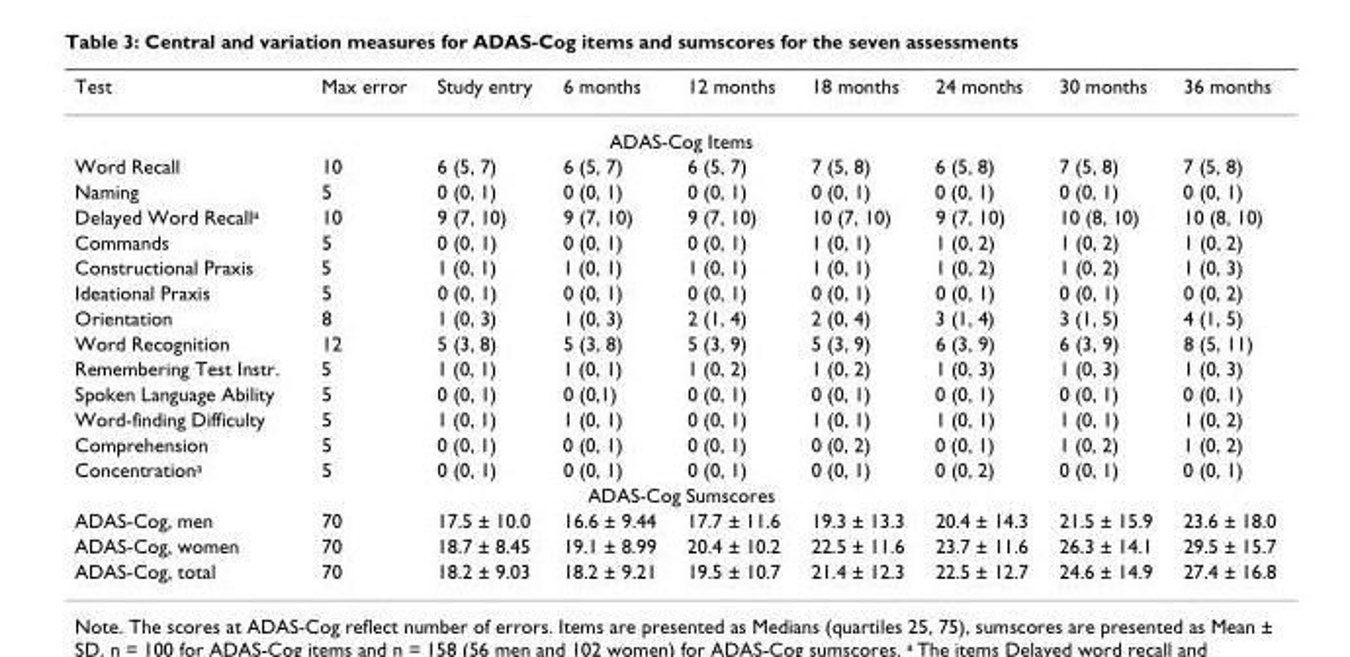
<table><thead><tr><td>Test</td><td>Max error</td><td>Study entry</td><td>6 months</td><td>12 months</td><td>18 months</td><td>24 months</td><td>30 months</td><td>36 months</td></tr></thead><tbody><tr><td colspan="9">ADAS-Cog Items</td></tr><tr><td>Word Recall</td><td>10</td><td>6 (5, 7)</td><td>6 (5, 7)</td><td>6 (5, 7)</td><td>7 (5, 8)</td><td>6 (5, 8)</td><td>7 (5, 8)</td><td>7 (5, 8)</td></tr><tr><td>Naming</td><td>5</td><td>0 (0, 1)</td><td>0 (0, 1)</td><td>0 (0, 1)</td><td>0 (0, 1)</td><td>0 (0, 1)</td><td>0 (0, 1)</td><td>0 (0, 1)</td></tr><tr><td>Delayed Word Recall<sup>a</sup></td><td>10</td><td>9 (7, 10)</td><td>9 (7, 10)</td><td>9 (7, 10)</td><td>10 (7, 10)</td><td>9 (7, 10)</td><td>10 (8, 10)</td><td>10 (8, 10)</td></tr><tr><td>Commands</td><td>5</td><td>0 (0, 1)</td><td>0 (0, 1)</td><td>0 (0, 1)</td><td>1 (0, 1)</td><td>1 (0, 2)</td><td>1 (0, 2)</td><td>1 (0, 2)</td></tr><tr><td>Constructional Praxis</td><td>5</td><td>1 (0, 1)</td><td>1 (0, 1)</td><td>1 (0, 1)</td><td>1 (0, 1)</td><td>1 (0, 2)</td><td>1 (0, 2)</td><td>1 (0, 3)</td></tr><tr><td>Ideational Praxis</td><td>5</td><td>0 (0, 1)</td><td>0 (0, 1)</td><td>0 (0, 1)</td><td>0 (0, 1)</td><td>0 (0, 1)</td><td>0 (0, 1)</td><td>0 (0, 2)</td></tr><tr><td>Orientation</td><td>8</td><td>1 (0, 3)</td><td>1 (0, 3)</td><td>2 (1, 4)</td><td>2 (0, 4)</td><td>3 (1, 4)</td><td>3 (1, 5)</td><td>4 (1, 5)</td></tr><tr><td>Word Recognition</td><td>12</td><td>5 (3, 8)</td><td>5 (3, 8)</td><td>5 (3, 9)</td><td>5 (3, 9)</td><td>6 (3, 9)</td><td>6 (3, 9)</td><td>8 (5, 11)</td></tr><tr><td>Remembering Test Instr.</td><td>5</td><td>1 (0, 1)</td><td>1 (0, 1)</td><td>1 (0, 2)</td><td>1 (0, 2)</td><td>1 (0, 3)</td><td>1 (0, 3)</td><td>1 (0, 3)</td></tr><tr><td>Spoken Language Ability</td><td>5</td><td>0 (0, 1)</td><td>0 (0,1)</td><td>0 (0, 1)</td><td>0 (0, 1)</td><td>0 (0, 1)</td><td>0 (0, 1)</td><td>0 (0, 1)</td></tr><tr><td>Word-finding Difficulty</td><td>5</td><td>1 (0, 1)</td><td>1 (0, 1)</td><td>0 (0, 1)</td><td>1 (0, 1)</td><td>1 (0, 1)</td><td>1 (0, 1)</td><td>1 (0, 2)</td></tr><tr><td>Comprehension</td><td>5</td><td>0 (0, 1)</td><td>0 (0, 1)</td><td>0 (0, 1)</td><td>0 (0, 2)</td><td>0 (0, 1)</td><td>1 (0, 2)</td><td>1 (0, 2)</td></tr><tr><td>Concentration<sup>a</sup></td><td>5</td><td>0 (0, 1)</td><td>0 (0, 1)</td><td>0 (0, 1)</td><td>0 (0, 1)</td><td>0 (0, 2)</td><td>0 (0, 1)</td><td>0 (0, 1)</td></tr><tr><td colspan="9">ADAS-Cog Sumscores</td></tr><tr><td>ADAS-Cog, men</td><td>70</td><td>17.5 ± 10.0</td><td>16.6 ± 9.44</td><td>17.7 ± 11.6</td><td>19.3 ± 13.3</td><td>20.4 ± 14.3</td><td>21.5 ± 15.9</td><td>23.6 ± 18.0</td></tr><tr><td>ADAS-Cog, women</td><td>70</td><td>18.7 ± 8.45</td><td>19.1 ± 8.99</td><td>20.4 ± 10.2</td><td>22.5 ± 11.6</td><td>23.7 ± 11.6</td><td>26.3 ± 14.1</td><td>29.5 ± 15.7</td></tr><tr><td>ADAS-Cog, total</td><td>70</td><td>18.2 ± 9.03</td><td>18.2 ± 9.21</td><td>19.5 ± 10.7</td><td>21.4 ± 12.3</td><td>22.5 ± 12.7</td><td>24.6 ± 14.9</td><td>27.4 ± 16.8</td></tr></tbody></table>